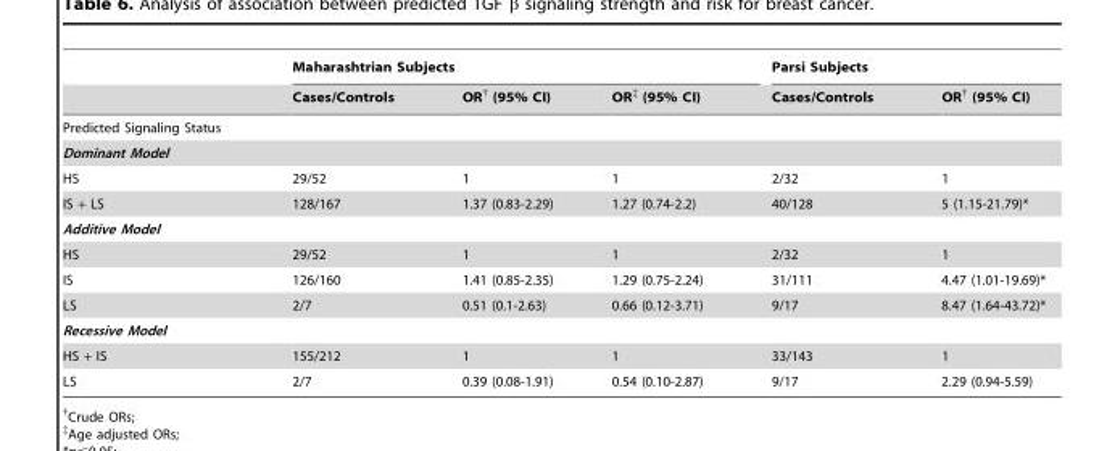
<table><thead><tr><td rowspan="2"></td><td colspan="3">Maharashtrian Subjects</td><td colspan="2">Parsi Subjects</td></tr><tr><td>Cases/Controls</td><td>OR† (95% CI)</td><td>OR‡ (95% CI)</td><td>Cases/Controls</td><td>OR† (95% CI)</td></tr></thead><tbody><tr><td colspan="6">Predicted Signaling Status</td></tr><tr><td colspan="6">Dominant Model</td></tr><tr><td>HS</td><td>29/52</td><td>1</td><td>1</td><td>2/32</td><td>1</td></tr><tr><td>IS + LS</td><td>128/167</td><td>1.37 (0.83-2.29)</td><td>1.27 (0.74-2.2)</td><td>40/128</td><td>5 (1.15-21.79)*</td></tr><tr><td colspan="6">Additive Model</td></tr><tr><td>HS</td><td>29/52</td><td>1</td><td>1</td><td>2/32</td><td>1</td></tr><tr><td>IS</td><td>126/160</td><td>1.41 (0.85-2.35)</td><td>1.29 (0.75-2.24)</td><td>31/111</td><td>4.47 (1.01-19.69)*</td></tr><tr><td>LS</td><td>2/7</td><td>0.51 (0.1-2.63)</td><td>0.66 (0.12-3.71)</td><td>9/17</td><td>8.47 (1.64-43.72)*</td></tr><tr><td colspan="6">Recessive Model</td></tr><tr><td>HS + IS</td><td>155/212</td><td>1</td><td>1</td><td>33/143</td><td>1</td></tr><tr><td>LS</td><td>2/7</td><td>0.39 (0.08-1.91)</td><td>0.54 (0.10-2.87)</td><td>9/17</td><td>2.29 (0.94-5.59)</td></tr></tbody></table>